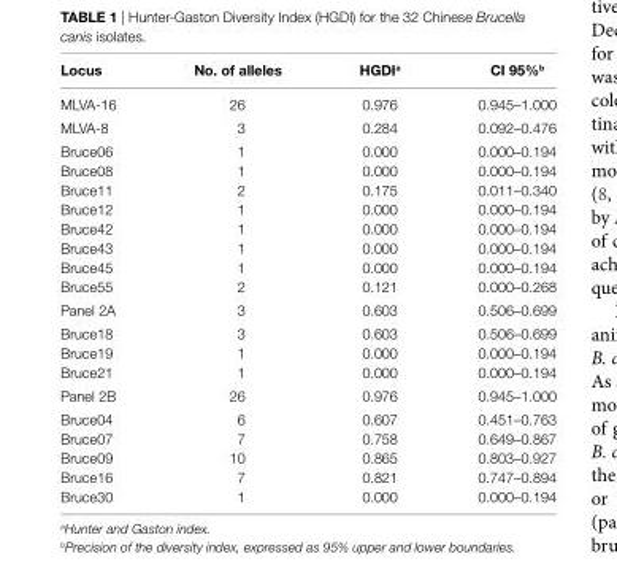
<table><thead><tr><td>locus</td><td>no. of alleles</td><td>hgDi<sup>a</sup></td><td>ci 95%<sup>b</sup></td></tr></thead><tbody><tr><td>MLVA-16</td><td>26</td><td>0.976</td><td>0.945–1.000</td></tr><tr><td>MLVA-8</td><td>3</td><td>0.284</td><td>0.092–0.476</td></tr><tr><td>Bruce06</td><td>1</td><td>0.000</td><td>0.000–0.194</td></tr><tr><td>Bruce08</td><td>1</td><td>0.000</td><td>0.000–0.194</td></tr><tr><td>Bruce11</td><td>2</td><td>0.175</td><td>0.011–0.340</td></tr><tr><td>Bruce12</td><td>1</td><td>0.000</td><td>0.000–0.194</td></tr><tr><td>Bruce42</td><td>1</td><td>0.000</td><td>0.000–0.194</td></tr><tr><td>Bruce43</td><td>1</td><td>0.000</td><td>0.000–0.194</td></tr><tr><td>Bruce45</td><td>1</td><td>0.000</td><td>0.000–0.194</td></tr><tr><td>Bruce55</td><td>2</td><td>0.121</td><td>0.000–0.268</td></tr><tr><td>Panel 2A</td><td>3</td><td>0.603</td><td>0.506–0.699</td></tr><tr><td>Bruce18</td><td>3</td><td>0.603</td><td>0.506–0.699</td></tr><tr><td>Bruce19</td><td>1</td><td>0.000</td><td>0.000–0.194</td></tr><tr><td>Bruce21</td><td>1</td><td>0.000</td><td>0.000–0.194</td></tr><tr><td>Panel 2B</td><td>26</td><td>0.976</td><td>0.945–1.000</td></tr><tr><td>Bruce04</td><td>6</td><td>0.607</td><td>0.451–0.763</td></tr><tr><td>Bruce07</td><td>7</td><td>0.758</td><td>0.649–0.867</td></tr><tr><td>Bruce09</td><td>10</td><td>0.865</td><td>0.803–0.927</td></tr><tr><td>Bruce16</td><td>7</td><td>0.821</td><td>0.747–0.894</td></tr><tr><td>Bruce30</td><td>1</td><td>0.000</td><td>0.000–0.194</td></tr></tbody></table>